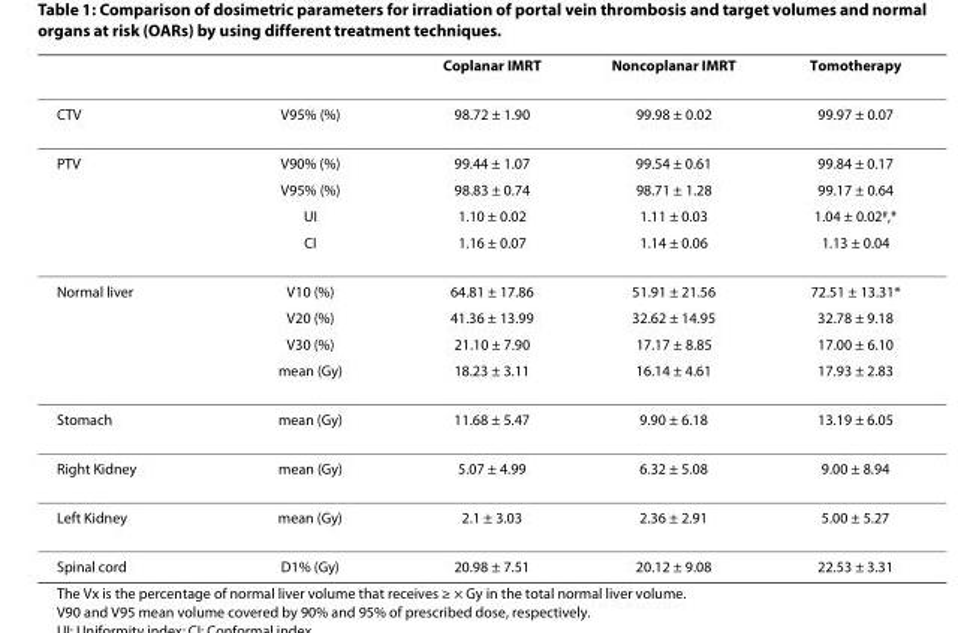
<table><thead><tr><td></td><td></td><td>Coplanar IMRT</td><td>Noncoplanar IMRT</td><td>Tomotherapy</td></tr></thead><tbody><tr><td>CTV</td><td>V95% (%)</td><td>98.72 ± 1.90</td><td>99.98 ± 0.02</td><td>99.97 ± 0.07</td></tr><tr><td rowspan="4">PTV</td><td>V90% (%)</td><td>99.44 ± 1.07</td><td>99.54 ± 0.61</td><td>99.84 ± 0.17</td></tr><tr><td>V95% (%)</td><td>98.83 ± 0.74</td><td>98.71 ± 1.28</td><td>99.17 ± 0.64</td></tr><tr><td>UI</td><td>1.10 ± 0.02</td><td>1.11 ± 0.03</td><td>1.04 ± 0.02<sup>#</sup>,*</td></tr><tr><td>CI</td><td>1.16 ± 0.07</td><td>1.14 ± 0.06</td><td>1.13 ± 0.04</td></tr><tr><td rowspan="4">Normal liver</td><td>V10 (%)</td><td>64.81 ± 17.86</td><td>51.91 ± 21.56</td><td>72.51 ± 13.31*</td></tr><tr><td>V20 (%)</td><td>41.36 ± 13.99</td><td>32.62 ± 14.95</td><td>32.78 ± 9.18</td></tr><tr><td>V30 (%)</td><td>21.10 ± 7.90</td><td>17.17 ± 8.85</td><td>17.00 ± 6.10</td></tr><tr><td>mean (Gy)</td><td>18.23 ± 3.11</td><td>16.14 ± 4.61</td><td>17.93 ± 2.83</td></tr><tr><td>Stomach</td><td>mean (Gy)</td><td>11.68 ± 5.47</td><td>9.90 ± 6.18</td><td>13.19 ± 6.05</td></tr><tr><td>Right Kidney</td><td>mean (Gy)</td><td>5.07 ± 4.99</td><td>6.32 ± 5.08</td><td>9.00 ± 8.94</td></tr><tr><td>Left Kidney</td><td>mean (Gy)</td><td>2.1 ± 3.03</td><td>2.36 ± 2.91</td><td>5.00 ± 5.27</td></tr><tr><td>Spinal cord</td><td>D1% (Gy)</td><td>20.98 ± 7.51</td><td>20.12 ± 9.08</td><td>22.53 ± 3.31</td></tr></tbody></table>